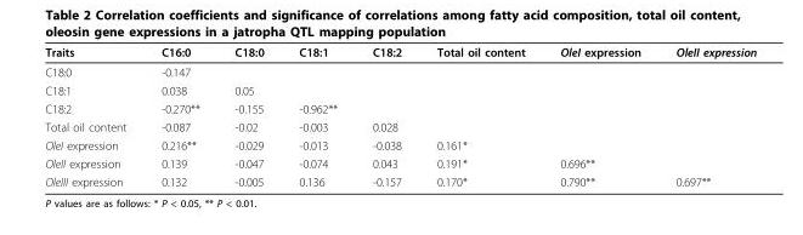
<table><thead><tr><td>Traits</td><td>C16:0</td><td>C18:0</td><td>C18:1</td><td>C18:2</td><td>Total oil content</td><td>OleI expression</td><td>OleII expression</td></tr></thead><tbody><tr><td>C18:0</td><td>-0.147</td><td></td><td></td><td></td><td></td><td></td><td></td></tr><tr><td>C18:1</td><td>0.038</td><td>0.05</td><td></td><td></td><td></td><td></td><td></td></tr><tr><td>C18:2</td><td>-0.270**</td><td>-0.155</td><td>-0.962**</td><td></td><td></td><td></td><td></td></tr><tr><td>Total oil content</td><td>-0.087</td><td>-0.02</td><td>-0.003</td><td>0.028</td><td></td><td></td><td></td></tr><tr><td>OleI expression</td><td>0.216**</td><td>-0.029</td><td>-0.013</td><td>-0.038</td><td>0.161*</td><td></td><td></td></tr><tr><td>OleII expression</td><td>0.139</td><td>-0.047</td><td>-0.074</td><td>0.043</td><td>0.191*</td><td>0.696**</td><td></td></tr><tr><td>OleIII expression</td><td>0.132</td><td>-0.005</td><td>0.136</td><td>-0.157</td><td>0.170*</td><td>0.790**</td><td>0.697**</td></tr></tbody></table>